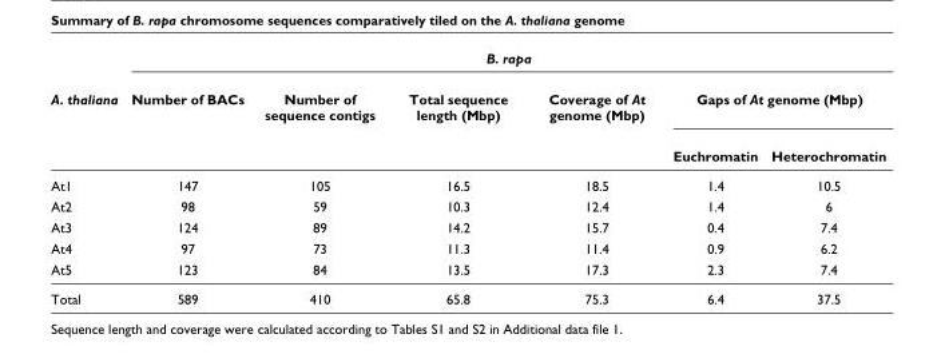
<table><thead><tr><td rowspan="3">A. thaliana</td><td colspan="6">B. rapa</td></tr><tr><td rowspan="2">Number of BACs</td><td rowspan="2">Number of sequence contigs</td><td rowspan="2">Total sequence length (Mbp)</td><td rowspan="2">Coverage of At genome (Mbp)</td><td colspan="2">Gaps of At genome (Mbp)</td></tr><tr><td>Euchromatin</td><td>Heterochromatin</td></tr></thead><tbody><tr><td>At1</td><td>147</td><td>105</td><td>16.5</td><td>18.5</td><td>1.4</td><td>10.5</td></tr><tr><td>At2</td><td>98</td><td>59</td><td>10.3</td><td>12.4</td><td>1.4</td><td>6</td></tr><tr><td>At3</td><td>124</td><td>89</td><td>14.2</td><td>15.7</td><td>0.4</td><td>7.4</td></tr><tr><td>At4</td><td>97</td><td>73</td><td>11.3</td><td>11.4</td><td>0.9</td><td>6.2</td></tr><tr><td>At5</td><td>123</td><td>84</td><td>13.5</td><td>17.3</td><td>2.3</td><td>7.4</td></tr><tr><td>Total</td><td>589</td><td>410</td><td>65.8</td><td>75.3</td><td>6.4</td><td>37.5</td></tr></tbody></table>